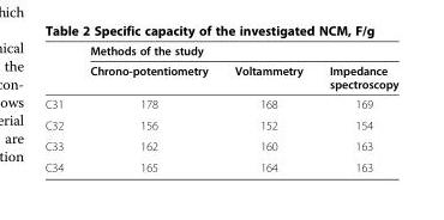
<table><thead><tr><td rowspan="2"></td><td colspan="3">Methods of the study</td></tr><tr><td>Chrono-potentiometry</td><td>Voltammetry</td><td>Impedance spectroscopy</td></tr></thead><tbody><tr><td>C31</td><td>178</td><td>168</td><td>169</td></tr><tr><td>C32</td><td>156</td><td>152</td><td>154</td></tr><tr><td>C33</td><td>162</td><td>160</td><td>163</td></tr><tr><td>C34</td><td>165</td><td>164</td><td>163</td></tr></tbody></table>